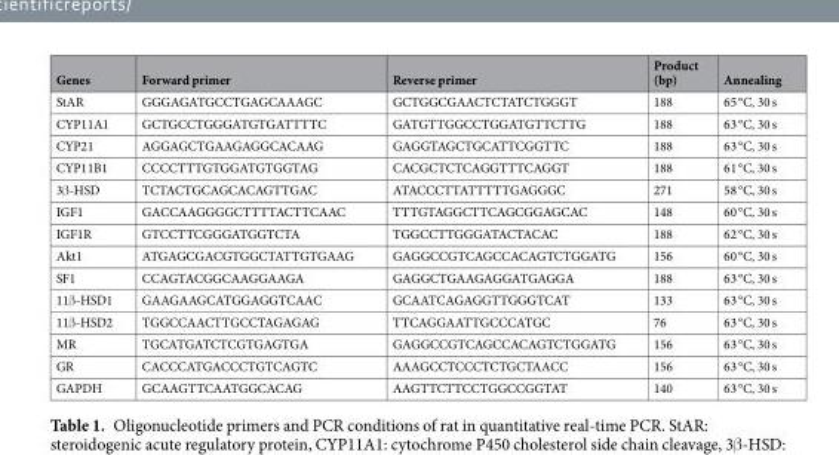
<table><thead><tr><td>Genes</td><td>Forward primer</td><td>Reverse primer</td><td>Product (bp)</td><td>Annealing</td></tr></thead><tbody><tr><td>StAR</td><td>GGGAGATGCCTGAGCAAAGC</td><td>GCTGGCGAACTCTATCTGGGT</td><td>188</td><td>65 °C, 30 s</td></tr><tr><td>CYP11A1</td><td>GCTGCCTGGGATGTGATTTTC</td><td>GATGTTGGCCTGGATGTTCTTG</td><td>188</td><td>63 °C, 30 s</td></tr><tr><td>CYP21</td><td>AGGAGCTGAAGAGGCACAAG</td><td>GAGGTAGCTGCATTCGGTTC</td><td>188</td><td>63 °C, 30 s</td></tr><tr><td>CYP11B1</td><td>CCCCTTTGTGGATGTGGTAG</td><td>CACGCTCTCAGGTTTCAGGT</td><td>188</td><td>61 °C, 30 s</td></tr><tr><td>3β-HSD</td><td>TCTACTGCAGCACAGTTGAC</td><td>ATACCCTTATTTTTGAGGGC</td><td>271</td><td>58 °C, 30 s</td></tr><tr><td>IGF1</td><td>GACCAAGGGGCTTTTACTTCAAC</td><td>TTTGTAGGCTTCAGCGGAGCAC</td><td>148</td><td>60 °C, 30 s</td></tr><tr><td>IGF1R</td><td>GTCCTTCGGGATGGTCTA</td><td>TGGCCTTGGGATACTACAC</td><td>188</td><td>62 °C, 30 s</td></tr><tr><td>Akt1</td><td>ATGAGCGACGTGGCTATTGTGAAG</td><td>GAGGCCGTCAGCCACAGTCTGGATG</td><td>156</td><td>60 °C, 30 s</td></tr><tr><td>SF1</td><td>CCAGTACGGCAAGGAAGA</td><td>GAGGCTGAAGAGGATGAGGA</td><td>188</td><td>63 °C, 30 s</td></tr><tr><td>11β-HSD1</td><td>GAAGAAGCATGGAGGTCAAC</td><td>GCAATCAGAGGTTGGGTCAT</td><td>133</td><td>63 °C, 30 s</td></tr><tr><td>11β-HSD2</td><td>TGGCCAACTTGCCTAGAGAG</td><td>TTCAGGAATTGCCCATGC</td><td>76</td><td>63 °C, 30 s</td></tr><tr><td>MR</td><td>TGCATGATCTCGTGAGTGA</td><td>GAGGCCGTCAGCCACAGTCTGGATG</td><td>156</td><td>63 °C, 30 s</td></tr><tr><td>GR</td><td>CACCCATGACCCTGTCAGTC</td><td>AAAGCCTCCCTCTGCTAACC</td><td>156</td><td>63 °C, 30 s</td></tr><tr><td>GAPDH</td><td>GCAAGTTCAATGGCACAG</td><td>AAGTTCTTCCTGGCCGGTAT</td><td>140</td><td>63 °C, 30 s</td></tr></tbody></table>